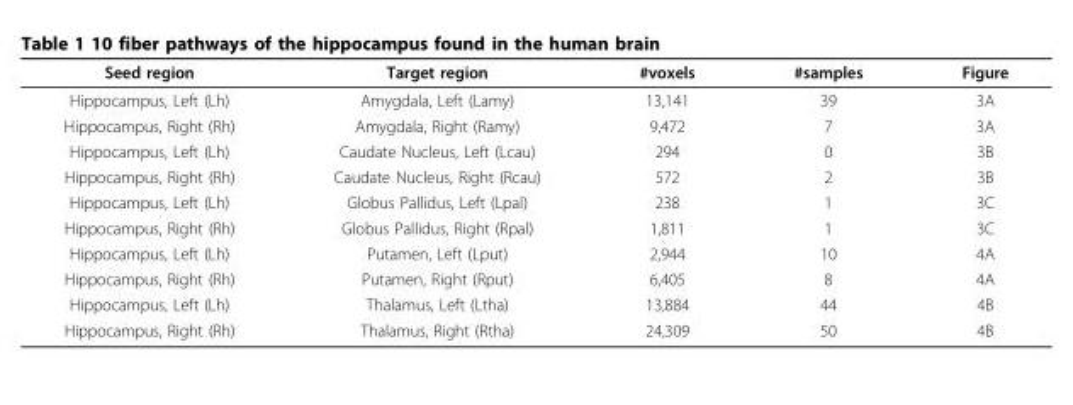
<table><thead><tr><td>Seed region</td><td>Target region</td><td>#voxels</td><td>#samples</td><td>Figure</td></tr></thead><tbody><tr><td>Hippocampus, Left (Lh)</td><td>Amygdala, Left (Lamy)</td><td>13,141</td><td>39</td><td>3A</td></tr><tr><td>Hippocampus, Right (Rh)</td><td>Amygdala, Right (Ramy)</td><td>9,472</td><td>7</td><td>3A</td></tr><tr><td>Hippocampus, Left (Lh)</td><td>Caudate Nucleus, Left (Lcau)</td><td>294</td><td>0</td><td>3B</td></tr><tr><td>Hippocampus, Right (Rh)</td><td>Caudate Nucleus, Right (Rcau)</td><td>572</td><td>2</td><td>3B</td></tr><tr><td>Hippocampus, Left (Lh)</td><td>Globus Pallidus, Left (Lpal)</td><td>238</td><td>1</td><td>3C</td></tr><tr><td>Hippocampus, Right (Rh)</td><td>Globus Pallidus, Right (Rpal)</td><td>1,811</td><td>1</td><td>3C</td></tr><tr><td>Hippocampus, Left (Lh)</td><td>Putamen, Left (Lput)</td><td>2,944</td><td>10</td><td>4A</td></tr><tr><td>Hippocampus, Right (Rh)</td><td>Putamen, Right (Rput)</td><td>6,405</td><td>8</td><td>4A</td></tr><tr><td>Hippocampus, Left (Lh)</td><td>Thalamus, Left (Ltha)</td><td>13,884</td><td>44</td><td>4B</td></tr><tr><td>Hippocampus, Right (Rh)</td><td>Thalamus, Right (Rtha)</td><td>24,309</td><td>50</td><td>4B</td></tr></tbody></table>